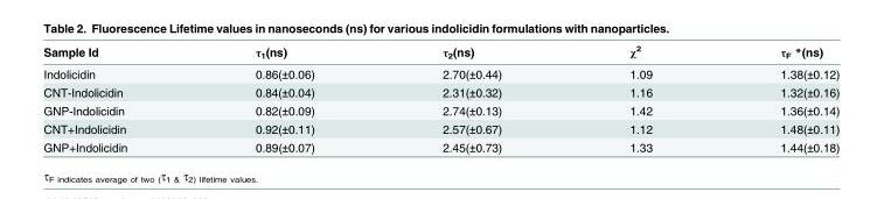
<table><thead><tr><td>Sample Id</td><td>τ<sub>1</sub>(ns)</td><td>τ<sub>2</sub>(ns)</td><td>χ<sup>2</sup></td><td>τ<sub>F</sub> *(ns)</td></tr></thead><tbody><tr><td>Indolicidin</td><td>0.86(±0.06)</td><td>2.70(±0.44)</td><td>1.09</td><td>1.38(±0.12)</td></tr><tr><td>CNT-Indolicidin</td><td>0.84(±0.04)</td><td>2.31(±0.32)</td><td>1.16</td><td>1.32(±0.16)</td></tr><tr><td>GNP-Indolicidin</td><td>0.82(±0.09)</td><td>2.74(±0.13)</td><td>1.42</td><td>1.36(±0.14)</td></tr><tr><td>CNT+Indolicidin</td><td>0.92(±0.11)</td><td>2.57(±0.67)</td><td>1.12</td><td>1.48(±0.11)</td></tr><tr><td>GNP+Indolicidin</td><td>0.89(±0.07)</td><td>2.45(±0.73)</td><td>1.33</td><td>1.44(±0.18)</td></tr></tbody></table>